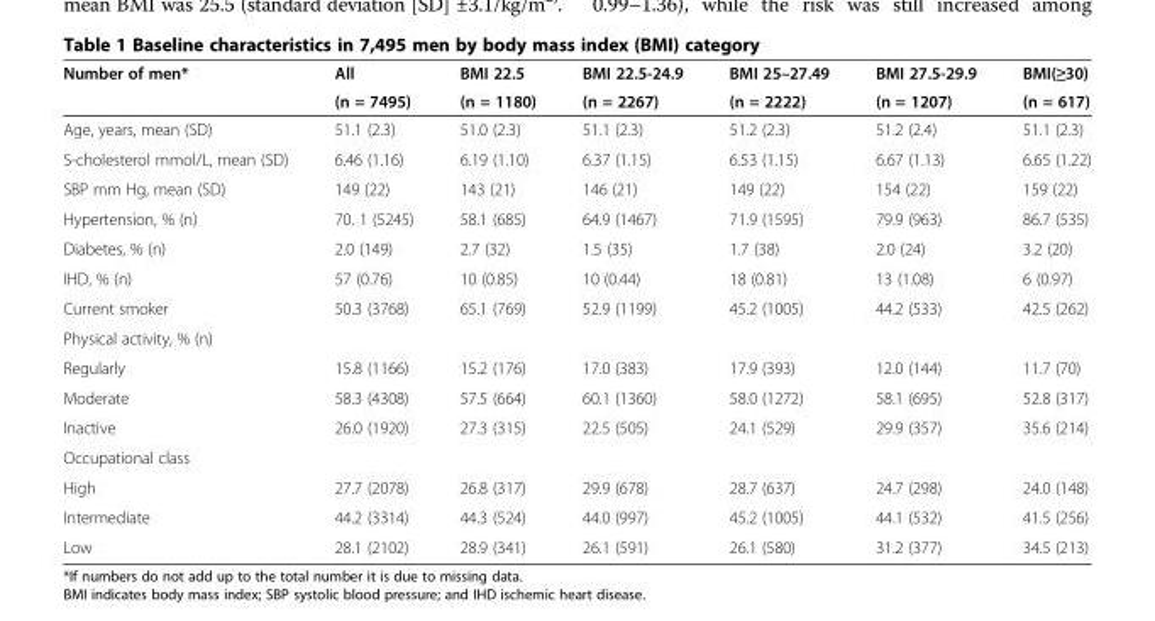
<table><thead><tr><td rowspan="2">Number of men*</td><td rowspan="2">All (n = 7495)</td><td rowspan="2">BMI 22.5 (n = 1180)</td><td rowspan="2">BMI 22.5-24.9 (n = 2267)</td><td rowspan="2">BMI 25–27.49 (n = 2222)</td><td rowspan="2">BMI 27.5-29.9 (n = 1207)</td><td rowspan="2">BMI(≥30) (n = 617)</td></tr><tr></tr></thead><tbody><tr><td>Age, years, mean (SD)</td><td>51.1 (2.3)</td><td>51.0 (2.3)</td><td>51.1 (2.3)</td><td>51.2 (2.3)</td><td>51.2 (2.4)</td><td>51.1 (2.3)</td></tr><tr><td>S-cholesterol mmol/L, mean (SD)</td><td>6.46 (1.16)</td><td>6.19 (1.10)</td><td>6.37 (1.15)</td><td>6.53 (1.15)</td><td>6.67 (1.13)</td><td>6.65 (1.22)</td></tr><tr><td>SBP mm Hg, mean (SD)</td><td>149 (22)</td><td>143 (21)</td><td>146 (21)</td><td>149 (22)</td><td>154 (22)</td><td>159 (22)</td></tr><tr><td>Hypertension, % (n)</td><td>70. 1 (5245)</td><td>58.1 (685)</td><td>64.9 (1467)</td><td>71.9 (1595)</td><td>79.9 (963)</td><td>86.7 (535)</td></tr><tr><td>Diabetes, % (n)</td><td>2.0 (149)</td><td>2.7 (32)</td><td>1.5 (35)</td><td>1.7 (38)</td><td>2.0 (24)</td><td>3.2 (20)</td></tr><tr><td>IHD, % (n)</td><td>57 (0.76)</td><td>10 (0.85)</td><td>10 (0.44)</td><td>18 (0.81)</td><td>13 (1.08)</td><td>6 (0.97)</td></tr><tr><td>Current smoker</td><td>50.3 (3768)</td><td>65.1 (769)</td><td>52.9 (1199)</td><td>45.2 (1005)</td><td>44.2 (533)</td><td>42.5 (262)</td></tr><tr><td colspan="7">Physical activity, % (n)</td></tr><tr><td>Regularly</td><td>15.8 (1166)</td><td>15.2 (176)</td><td>17.0 (383)</td><td>17.9 (393)</td><td>12.0 (144)</td><td>11.7 (70)</td></tr><tr><td>Moderate</td><td>58.3 (4308)</td><td>57.5 (664)</td><td>60.1 (1360)</td><td>58.0 (1272)</td><td>58.1 (695)</td><td>52.8 (317)</td></tr><tr><td>Inactive</td><td>26.0 (1920)</td><td>27.3 (315)</td><td>22.5 (505)</td><td>24.1 (529)</td><td>29.9 (357)</td><td>35.6 (214)</td></tr><tr><td colspan="7">Occupational class</td></tr><tr><td>High</td><td>27.7 (2078)</td><td>26.8 (317)</td><td>29.9 (678)</td><td>28.7 (637)</td><td>24.7 (298)</td><td>24.0 (148)</td></tr><tr><td>Intermediate</td><td>44.2 (3314)</td><td>44.3 (524)</td><td>44.0 (997)</td><td>45.2 (1005)</td><td>44.1 (532)</td><td>41.5 (256)</td></tr><tr><td>Low</td><td>28.1 (2102)</td><td>28.9 (341)</td><td>26.1 (591)</td><td>26.1 (580)</td><td>31.2 (377)</td><td>34.5 (213)</td></tr></tbody></table>